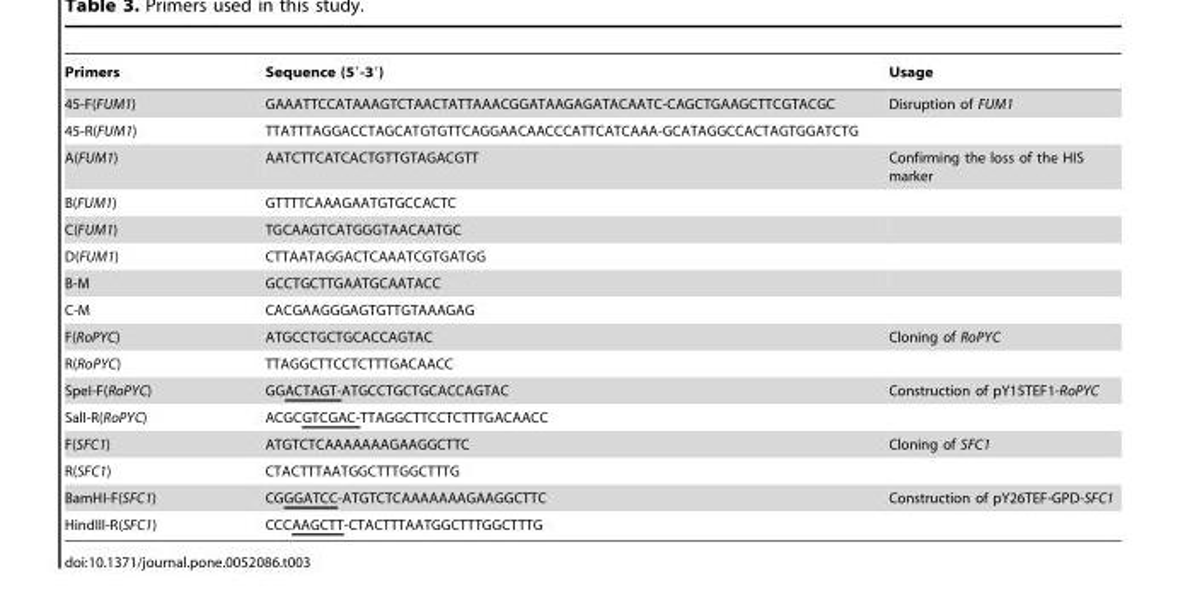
<table><thead><tr><td>Primers</td><td>Sequence (5′-3′)</td><td>Usage</td></tr></thead><tbody><tr><td>45-F(FUM1)</td><td>GAAATTCCATAAAGTCTAACTATTAAACGGATAAGAGATACAATC-CAGCTGAAGCTTCGTACGC</td><td>Disruption of FUM1</td></tr><tr><td>45-R(FUM1)</td><td>TTATTTAGGACCTAGCATGTGTTCAGGAACAACCCATTCATCAAA-GCATAGGCCACTAGTGGATCTG</td><td></td></tr><tr><td>A(FUM1)</td><td>AATCTTCATCACTGTTGTAGACGTT</td><td>Confirming the loss of the HIS marker</td></tr><tr><td>B(FUM1)</td><td>GTTTTCAAAGAATGTGCCACTC</td><td></td></tr><tr><td>C(FUM1)</td><td>TGCAAGTCATGGGTAACAATGC</td><td></td></tr><tr><td>D(FUM1)</td><td>CTTAATAGGACTCAAATCGTGATGG</td><td></td></tr><tr><td>B-M</td><td>GCCTGCTTGAATGCAATACC</td><td></td></tr><tr><td>C-M</td><td>CACGAAGGGAGTGTTGTAAAGAG</td><td></td></tr><tr><td>F(RoPYC)</td><td>ATGCCTGCTGCACCAGTAC</td><td>Cloning of RoPYC</td></tr><tr><td>R(RoPYC)</td><td>TTAGGCTTCCTCTTTGACAACC</td><td></td></tr><tr><td>SpeI-F(RoPYC)</td><td>GGACTAGT-ATGCCTGCTGCACCAGTAC</td><td>Construction of pY15TEF1-RoPYC</td></tr><tr><td>SalI-R(RoPYC)</td><td>ACGCGTCGAC-TTAGGCTTCCTCTTTGACAACC</td><td></td></tr><tr><td>F(SFC1)</td><td>ATGTCTCAAAAAAAGAAGGCTTC</td><td>Cloning of SFC1</td></tr><tr><td>R(SFC1)</td><td>CTACTTTAATGGCTTTGGCTTTG</td><td></td></tr><tr><td>BamHI-F(SFC1)</td><td>CGGGATCC-ATGTCTCAAAAAAAGAAGGCTTC</td><td>Construction of pY26TEF-GPD-SFC1</td></tr><tr><td>HindIII-R(SFC1)</td><td>CCCAAGCTT-CTACTTTAATGGCTTTGGCTTTG</td><td></td></tr></tbody></table>